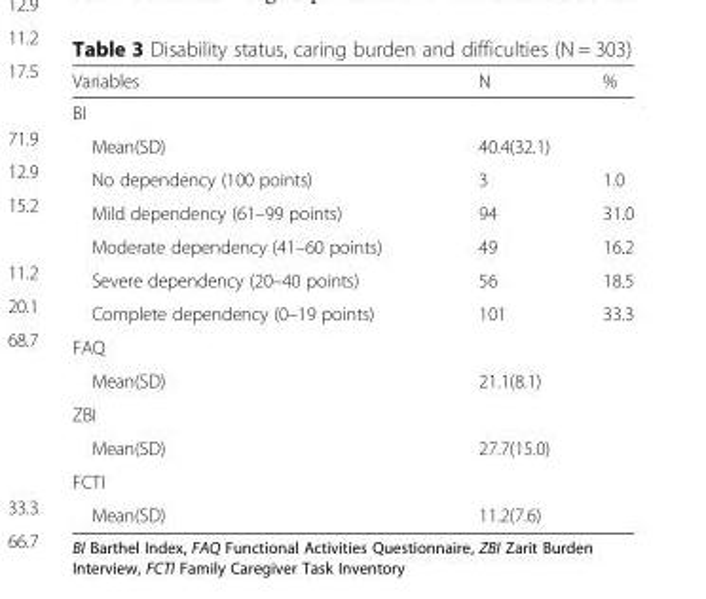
<table><thead><tr><td>Variables</td><td>N</td><td>%</td></tr></thead><tbody><tr><td colspan="3">BI</td></tr><tr><td>Mean(SD)</td><td colspan="2">40.4(32.1)</td></tr><tr><td>No dependency (100 points)</td><td>3</td><td>1.0</td></tr><tr><td>Mild dependency (61–99 points)</td><td>94</td><td>31.0</td></tr><tr><td>Moderate dependency (41–60 points)</td><td>49</td><td>16.2</td></tr><tr><td>Severe dependency (20–40 points)</td><td>56</td><td>18.5</td></tr><tr><td>Complete dependency (0–19 points)</td><td>101</td><td>33.3</td></tr><tr><td colspan="3">FAQ</td></tr><tr><td>Mean(SD)</td><td colspan="2">21.1(8.1)</td></tr><tr><td colspan="3">ZBI</td></tr><tr><td>Mean(SD)</td><td colspan="2">27.7(15.0)</td></tr><tr><td colspan="3">FCTI</td></tr><tr><td>Mean(SD)</td><td colspan="2">11.2(7.6)</td></tr></tbody></table>